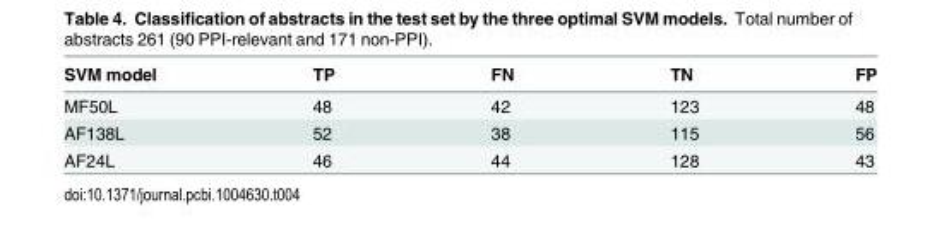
<table><thead><tr><td>SVM model</td><td>TP</td><td>FN</td><td>TN</td><td>FP</td></tr></thead><tbody><tr><td>MF50L</td><td>48</td><td>42</td><td>123</td><td>48</td></tr><tr><td>AF138L</td><td>52</td><td>38</td><td>115</td><td>56</td></tr><tr><td>AF24L</td><td>46</td><td>44</td><td>128</td><td>43</td></tr></tbody></table>